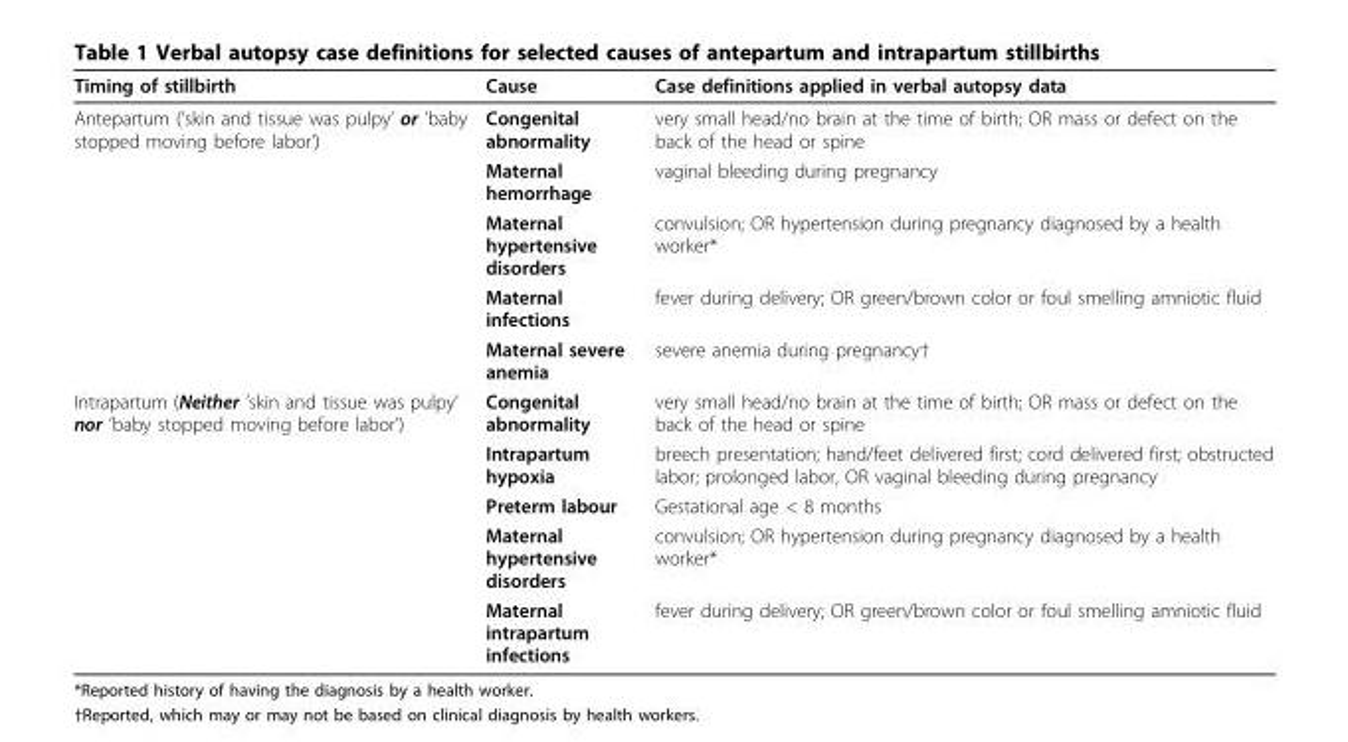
<table><thead><tr><td>Timing of stillbirth</td><td>Cause</td><td>Case definitions applied in verbal autopsy data</td></tr></thead><tbody><tr><td rowspan="5">Antepartum (’skin and tissue was pulpy’ or ’baby stopped moving before labor’)</td><td>Congenital abnormality</td><td>very small head/no brain at the time of birth; OR mass or defect on the back of the head or spine</td></tr><tr><td>Maternal hemorrhage</td><td>vaginal bleeding during pregnancy</td></tr><tr><td>Maternal hypertensive disorders</td><td>convulsion; OR hypertension during pregnancy diagnosed by a health worker*</td></tr><tr><td>Maternal infections</td><td>fever during delivery; OR green/brown color or foul smelling amniotic fluid</td></tr><tr><td>Maternal severe anemia</td><td>severe anemia during pregnancy†</td></tr><tr><td rowspan="5">Intrapartum (Neither ’skin and tissue was pulpy’ nor ’baby stopped moving before labor’)</td><td>Congenital abnormality</td><td>very small head/no brain at the time of birth; OR mass or defect on the back of the head or spine</td></tr><tr><td>Intrapartum hypoxia</td><td>breech presentation; hand/feet delivered first; cord delivered first; obstructed labor; prolonged labor, OR vaginal bleeding during pregnancy</td></tr><tr><td>Preterm labour</td><td>Gestational age &lt; 8 months</td></tr><tr><td>Maternal hypertensive disorders</td><td>convulsion; OR hypertension during pregnancy diagnosed by a health worker*</td></tr><tr><td>Maternal intrapartum infections</td><td>fever during delivery; OR green/brown color or foul smelling amniotic fluid</td></tr></tbody></table>